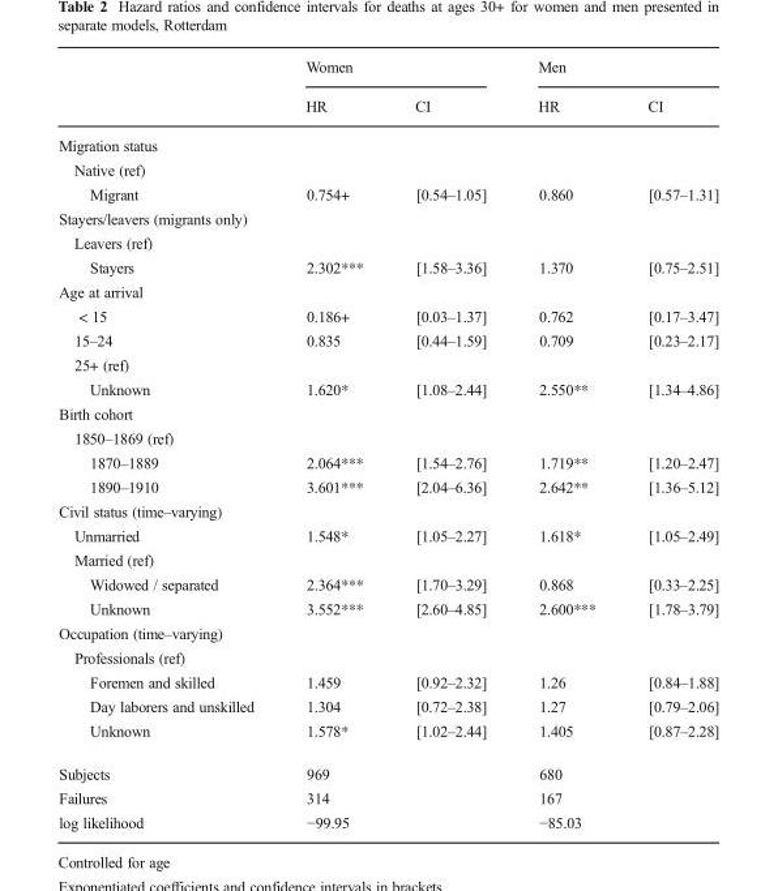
<table><thead><tr><td rowspan="2"></td><td colspan="2">Women</td><td colspan="2">Men</td></tr><tr><td>HR</td><td>CI</td><td>HR</td><td>CI</td></tr></thead><tbody><tr><td colspan="5">Migration status</td></tr><tr><td colspan="5">Native (ref)</td></tr><tr><td>Migrant</td><td>0.754+</td><td>[0.54–1.05]</td><td>0.860</td><td>[0.57–1.31]</td></tr><tr><td colspan="5">Stayers/leavers (migrants only)</td></tr><tr><td colspan="5">Leavers (ref)</td></tr><tr><td>Stayers</td><td>2.302***</td><td>[1.58–3.36]</td><td>1.370</td><td>[0.75–2.51]</td></tr><tr><td colspan="5">Age at arrival</td></tr><tr><td>&lt; 15</td><td>0.186+</td><td>[0.03–1.37]</td><td>0.762</td><td>[0.17–3.47]</td></tr><tr><td>15–24</td><td>0.835</td><td>[0.44–1.59]</td><td>0.709</td><td>[0.23–2.17]</td></tr><tr><td colspan="5">25+ (ref)</td></tr><tr><td>Unknown</td><td>1.620*</td><td>[1.08–2.44]</td><td>2.550**</td><td>[1.34–4.86]</td></tr><tr><td colspan="5">Birth cohort</td></tr><tr><td colspan="5">1850–1869 (ref)</td></tr><tr><td>1870–1889</td><td>2.064***</td><td>[1.54–2.76]</td><td>1.719**</td><td>[1.20–2.47]</td></tr><tr><td>1890–1910</td><td>3.601***</td><td>[2.04–6.36]</td><td>2.642**</td><td>[1.36–5.12]</td></tr><tr><td colspan="5">Civil status (time–varying)</td></tr><tr><td>Unmarried</td><td>1.548*</td><td>[1.05–2.27]</td><td>1.618*</td><td>[1.05–2.49]</td></tr><tr><td colspan="5">Married (ref)</td></tr><tr><td>Widowed / separated</td><td>2.364***</td><td>[1.70–3.29]</td><td>0.868</td><td>[0.33–2.25]</td></tr><tr><td>Unknown</td><td>3.552***</td><td>[2.60–4.85]</td><td>2.600***</td><td>[1.78–3.79]</td></tr><tr><td colspan="5">Occupation (time–varying)</td></tr><tr><td colspan="5">Professionals (ref)</td></tr><tr><td>Foremen and skilled</td><td>1.459</td><td>[0.92–2.32]</td><td>1.26</td><td>[0.84–1.88]</td></tr><tr><td>Day laborers and unskilled</td><td>1.304</td><td>[0.72–2.38]</td><td>1.27</td><td>[0.79–2.06]</td></tr><tr><td>Unknown</td><td>1.578*</td><td>[1.02–2.44]</td><td>1.405</td><td>[0.87–2.28]</td></tr><tr><td>Subjects</td><td>969</td><td></td><td>680</td><td></td></tr><tr><td>Failures</td><td>314</td><td></td><td>167</td><td></td></tr><tr><td>log likelihood</td><td>−99.95</td><td></td><td>−85.03</td><td></td></tr></tbody></table>